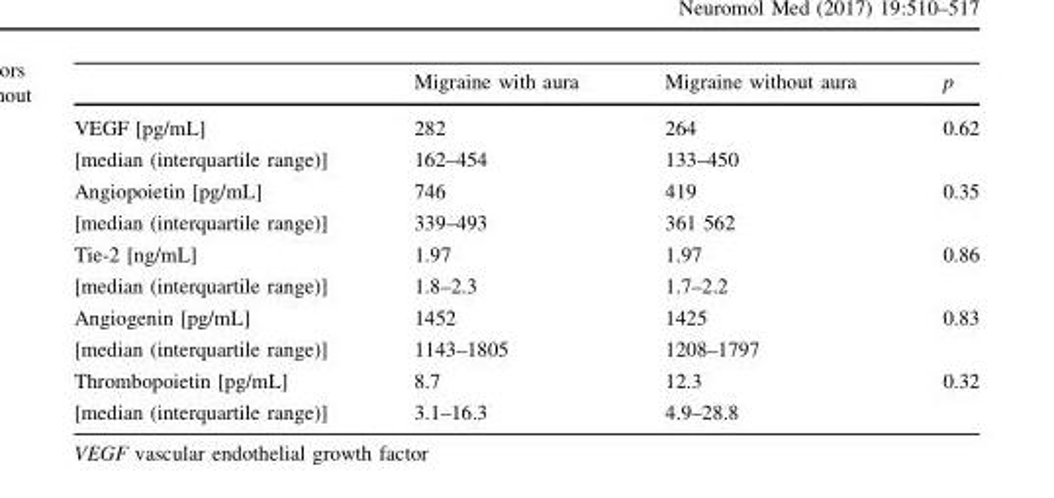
<table><thead><tr><td></td><td>Migraine with aura</td><td>Migraine without aura</td><td>p</td></tr></thead><tbody><tr><td>VEGF [pg/mL] [median (interquartile range)]</td><td>282 162–454</td><td>264 133–450</td><td>0.62</td></tr><tr><td>Angiopoietin [pg/mL] [median (interquartile range)]</td><td>746 339–493</td><td>419 361 562</td><td>0.35</td></tr><tr><td>Tie-2 [ng/mL] [median (interquartile range)]</td><td>1.97 1.8–2.3</td><td>1.97 1.7–2.2</td><td>0.86</td></tr><tr><td>Angiogenin [pg/mL] [median (interquartile range)]</td><td>1452 1143–1805</td><td>1425 1208–1797</td><td>0.83</td></tr><tr><td>Thrombopoietin [pg/mL] [median (interquartile range)]</td><td>8.7 3.1–16.3</td><td>12.3 4.9–28.8</td><td>0.32</td></tr></tbody></table>